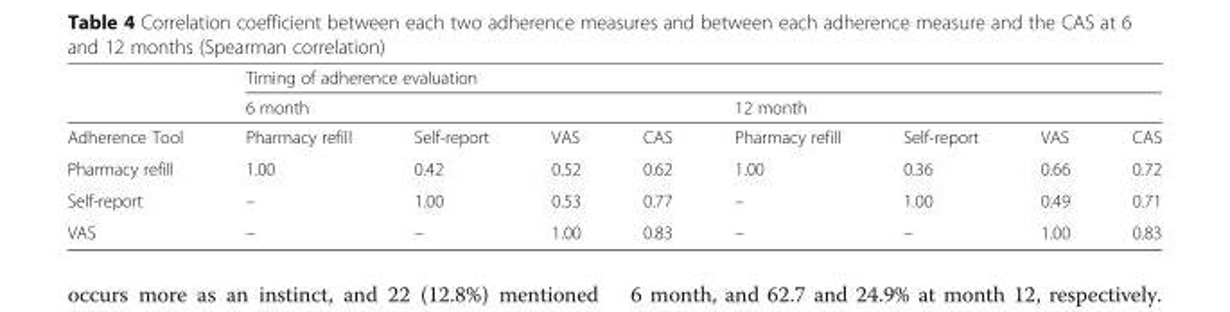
<table><thead><tr><td rowspan="3">Adherence Tool</td><td colspan="8">Timing of adherence evaluation</td></tr><tr><td colspan="4">6 month</td><td colspan="4">12 month</td></tr><tr><td>Pharmacy refill</td><td>Self-report</td><td>VAS</td><td>CAS</td><td>Pharmacy refill</td><td>Self-report</td><td>VAS</td><td>CAS</td></tr></thead><tbody><tr><td>Pharmacy refill</td><td>1.00</td><td>0.42</td><td>0.52</td><td>0.62</td><td>1.00</td><td>0.36</td><td>0.66</td><td>0.72</td></tr><tr><td>Self-report</td><td>–</td><td>1.00</td><td>0.53</td><td>0.77</td><td>–</td><td>1.00</td><td>0.49</td><td>0.71</td></tr><tr><td>VAS</td><td>–</td><td>–</td><td>1.00</td><td>0.83</td><td>–</td><td>–</td><td>1.00</td><td>0.83</td></tr></tbody></table>